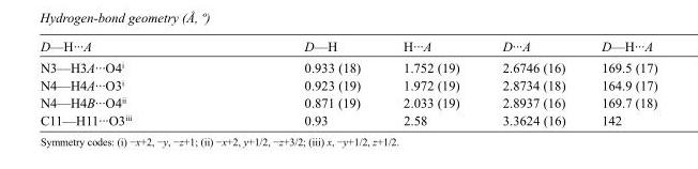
<table><tbody><tr><td>D—H···A</td><td>D—H</td><td>H···A</td><td>D···A</td><td>D—H···A</td></tr><tr><td>N3—H3A···O4<sup>i</sup></td><td>0.933 (18)</td><td>1.752 (19)</td><td>2.6746 (16)</td><td>169.5 (17)</td></tr><tr><td>N4—H4A···O3<sup>i</sup></td><td>0.923 (19)</td><td>1.972 (19)</td><td>2.8734 (18)</td><td>164.9 (17)</td></tr><tr><td>N4—H4B···O4<sup>ii</sup></td><td>0.871 (19)</td><td>2.033 (19)</td><td>2.8937 (16)</td><td>169.7 (18)</td></tr><tr><td>C11—H11···O3<sup>iii</sup></td><td>0.93</td><td>2.58</td><td>3.3624 (16)</td><td>142</td></tr></tbody></table>